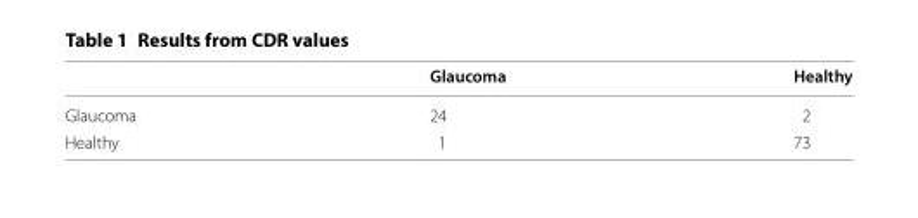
<table><thead><tr><td></td><td>Glaucoma</td><td>Healthy</td></tr></thead><tbody><tr><td>Glaucoma</td><td>24</td><td>2</td></tr><tr><td>Healthy</td><td>1</td><td>73</td></tr></tbody></table>